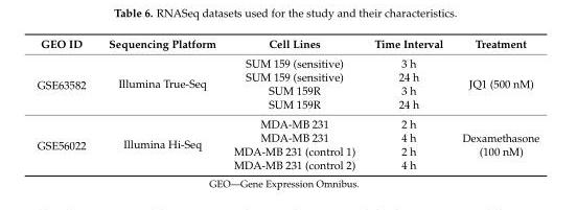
<table><thead><tr><td>GEO ID</td><td>Sequencing Platform</td><td>Cell Lines</td><td>Time Interval</td><td>Treatment</td></tr></thead><tbody><tr><td rowspan="4">GSE63582</td><td rowspan="4">Illumina True-Seq</td><td>SUM 159 (sensitive)</td><td>3 h</td><td rowspan="4">JQ1 (500 nM)</td></tr><tr><td>SUM 159 (sensitive)</td><td>24 h</td></tr><tr><td>SUM 159R</td><td>3 h</td></tr><tr><td>SUM 159R</td><td>24 h</td></tr><tr><td rowspan="4">GSE56022</td><td rowspan="4">Illumina Hi-Seq</td><td>MDA-MB 231</td><td>2 h</td><td rowspan="4">Dexamethasone (100 nM)</td></tr><tr><td>MDA-MB 231</td><td>4 h</td></tr><tr><td>MDA-MB 231 (control 1)</td><td>2 h</td></tr><tr><td>MDA-MB 231 (control 2)</td><td>4 h</td></tr></tbody></table>